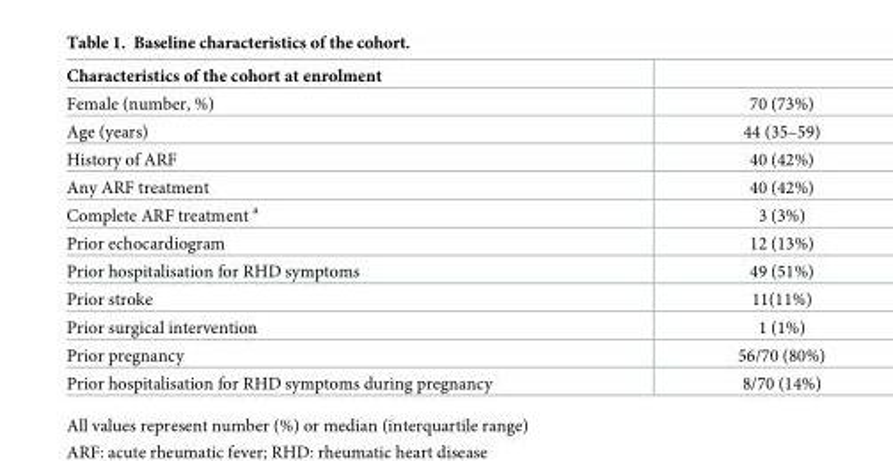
<table><thead><tr><td>Characteristics of the cohort at enrolment</td><td></td></tr></thead><tbody><tr><td>Female (number, %)</td><td>70 (73%)</td></tr><tr><td>Age (years)</td><td>44 (35–59)</td></tr><tr><td>History of ARF</td><td>40 (42%)</td></tr><tr><td>Any ARF treatment</td><td>40 (42%)</td></tr><tr><td>Complete ARF treatment <sup>a</sup></td><td>3 (3%)</td></tr><tr><td>Prior echocardiogram</td><td>12 (13%)</td></tr><tr><td>Prior hospitalisation for RHD symptoms</td><td>49 (51%)</td></tr><tr><td>Prior stroke</td><td>11(11%)</td></tr><tr><td>Prior surgical intervention</td><td>1 (1%)</td></tr><tr><td>Prior pregnancy</td><td>56/70 (80%)</td></tr><tr><td>Prior hospitalisation for RHD symptoms during pregnancy</td><td>8/70 (14%)</td></tr></tbody></table>